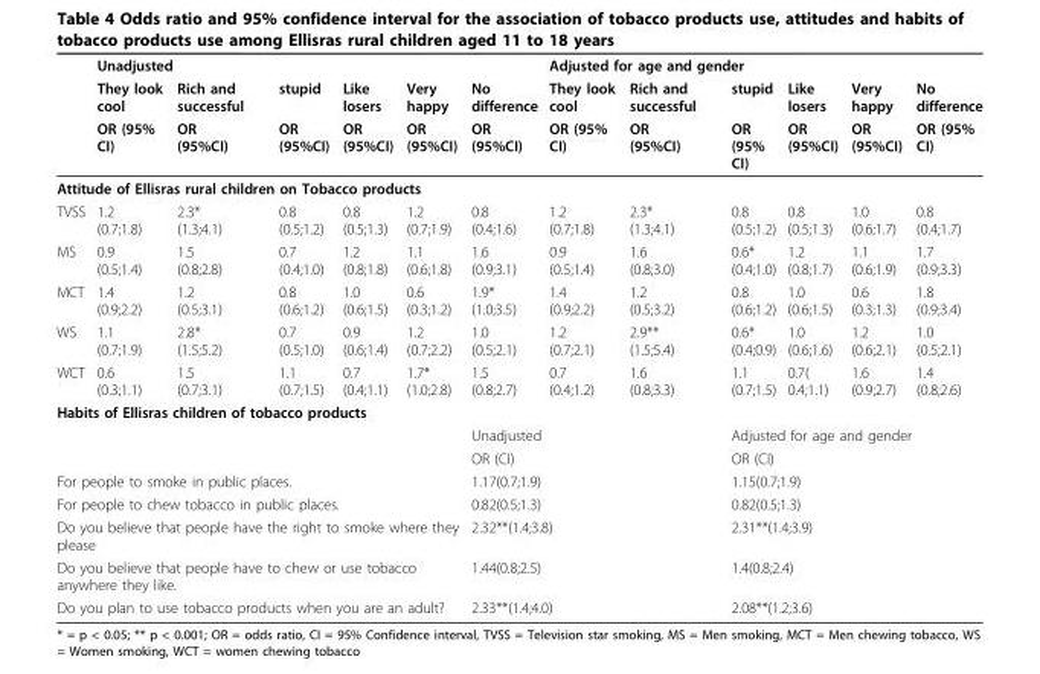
<table><thead><tr><td rowspan="3"></td><td colspan="6">Unadjusted</td><td colspan="6">Adjusted for age and gender</td></tr><tr><td rowspan="2">They look cool OR (95% CI)</td><td rowspan="2">Rich and successful OR (95%CI)</td><td rowspan="2">stupid OR (95%CI)</td><td rowspan="2">Like losers OR (95%CI)</td><td rowspan="2">Very happy OR (95%CI)</td><td rowspan="2">No difference OR (95%CI)</td><td rowspan="2">They look cool OR (95% CI)</td><td rowspan="2">Rich and successful OR (95%CI)</td><td rowspan="2">stupid OR (95% CI)</td><td rowspan="2">Like losers OR (95%CI)</td><td rowspan="2">Very happy OR (95%CI)</td><td rowspan="2">No difference OR (95% CI)</td></tr><tr></tr></thead><tbody><tr><td colspan="13">Attitude of Ellisras rural children on Tobacco products</td></tr><tr><td>TVSS</td><td>1.2 (0.7;1.8)</td><td>2.3* (1.3;4.1)</td><td>0.8 (0.5;1.2)</td><td>0.8 (0.5;1.3)</td><td>1.2 (0.7;1.9)</td><td>0.8 (0.4;1.6)</td><td>1.2 (0.7;1.8)</td><td>2.3* (1.3;4.1)</td><td>0.8 (0.5;1.2)</td><td>0.8 (0.5;1.3)</td><td>1.0 (0.6;1.7)</td><td>0.8 (0.4;1.7)</td></tr><tr><td>MS</td><td>0.9 (0.5;1.4)</td><td>1.5 (0.8;2.8)</td><td>0.7 (0.4;1.0)</td><td>1.2 (0.8;1.8)</td><td>1.1 (0.6;1.8)</td><td>1.6 (0.9;3.1)</td><td>0.9 (0.5;1.4)</td><td>1.6 (0.8;3.0)</td><td>0.6* (0.4;1.0)</td><td>1.2 (0.8;1.7)</td><td>1.1 (0.6;1.9)</td><td>1.7 (0.9;3.3)</td></tr><tr><td>MCT</td><td>1.4 (0.9;2.2)</td><td>1.2 (0.5;3.1)</td><td>0.8 (0.6;1.2)</td><td>1.0 (0.6;1.5)</td><td>0.6 (0.3;1.2)</td><td>1.9* (1.0;3.5)</td><td>1.4 (0.9;2.2)</td><td>1.2 (0.5;3.2)</td><td>0.8 (0.6;1.2)</td><td>1.0 (0.6;1.5)</td><td>0.6 (0.3;1.3)</td><td>1.8 (0.9;3.4)</td></tr><tr><td>WS</td><td>1.1 (0.7;1.9)</td><td>2.8* (1.5;5.2)</td><td>0.7 (0.5;1.0)</td><td>0.9 (0.6;1.4)</td><td>1.2 (0.7;2.2)</td><td>1.0 (0.5;2.1)</td><td>1.2 (0.7;2.1)</td><td>2.9** (1.5;5.4)</td><td>0.6* (0.4;0.9)</td><td>1.0 (0.6;1.6)</td><td>1.2 (0.6;2.1)</td><td>1.0 (0.5;2.1)</td></tr><tr><td>WCT</td><td>0.6 (0.3;1.1)</td><td>1.5 (0.7;3.1)</td><td>1.1 (0.7;1.5)</td><td>0.7 (0.4;1.1)</td><td>1.7* (1.0;2.8)</td><td>1.5 (0.8;2.7)</td><td>0.7 (0.4;1.2)</td><td>1.6 (0.8;3.3)</td><td>1.1 (0.7;1.5)</td><td>0.7( 0.4;1.1)</td><td>1.6 (0.9;2.7)</td><td>1.4 (0.8;2.6)</td></tr><tr><td colspan="13">Habits of Ellisras children of tobacco products</td></tr><tr><td></td><td></td><td></td><td></td><td></td><td></td><td colspan="3">Unadjusted</td><td colspan="4">Adjusted for age and gender</td></tr><tr><td></td><td></td><td></td><td></td><td></td><td></td><td colspan="3">OR (CI)</td><td colspan="4">OR (CI)</td></tr><tr><td colspan="6">For people to smoke in public places.</td><td colspan="3">1.17(0.7;1.9)</td><td colspan="4">1.15(0.7;1.9)</td></tr><tr><td colspan="6">For people to chew tobacco in public places.</td><td colspan="3">0.82(0.5;1.3)</td><td colspan="4">0.82(0.5;1.3)</td></tr><tr><td colspan="6">Do you believe that people have the right to smoke where they please</td><td colspan="3">2.32**(1.4;3.8)</td><td colspan="4">2.31**(1.4;3.9)</td></tr><tr><td colspan="6">Do you believe that people have to chew or use tobacco anywhere they like.</td><td colspan="3">1.44(0.8;2.5)</td><td colspan="4">1.4(0.8;2.4)</td></tr><tr><td colspan="6">Do you plan to use tobacco products when you are an adult?</td><td colspan="3">2.33**(1.4;4.0)</td><td colspan="4">2.08**(1.2;3.6)</td></tr></tbody></table>